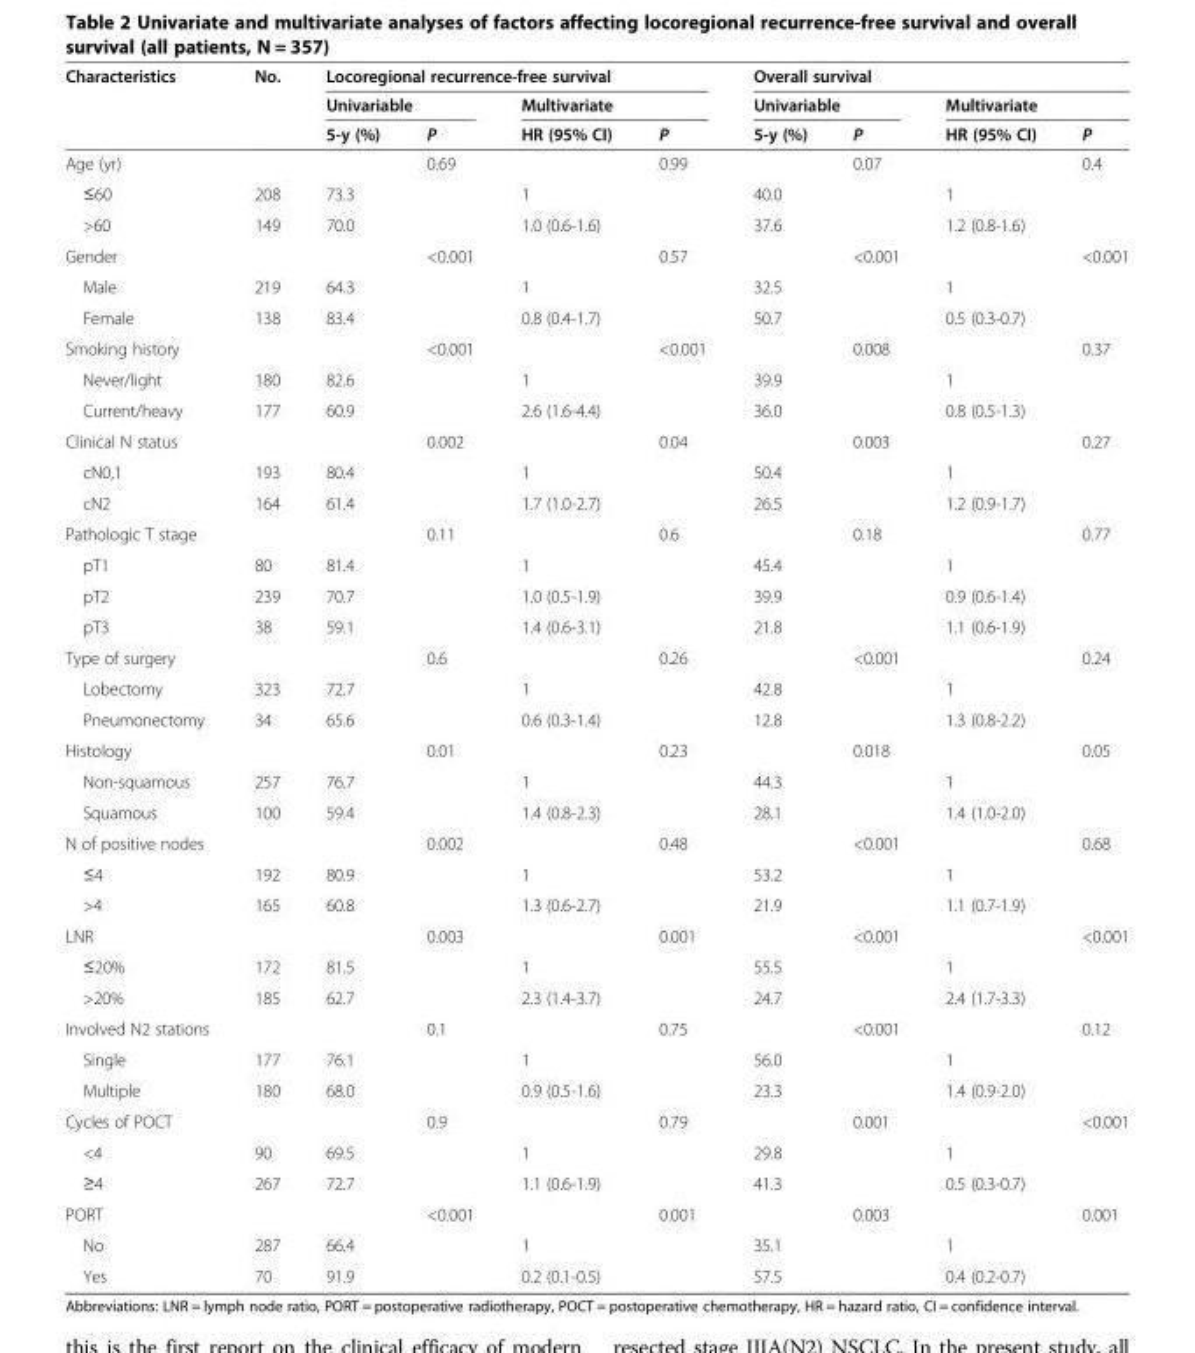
<table><thead><tr><td rowspan="3">Characteristics</td><td rowspan="3">No.</td><td colspan="4">Locoregional recurrence-free survival</td><td colspan="4">Overall survival</td></tr><tr><td colspan="2">Univariable</td><td colspan="2">Multivariate</td><td colspan="2">Univariable</td><td colspan="2">Multivariate</td></tr><tr><td>5-y (%)</td><td>P</td><td>HR (95% CI)</td><td>P</td><td>5-y (%)</td><td>P</td><td>HR (95% CI)</td><td>P</td></tr></thead><tbody><tr><td>Age (yr)</td><td></td><td></td><td>0.69</td><td></td><td>0.99</td><td></td><td>0.07</td><td></td><td>0.4</td></tr><tr><td>≤60</td><td>208</td><td>73.3</td><td rowspan="2"></td><td>1</td><td rowspan="2"></td><td>40.0</td><td rowspan="2"></td><td>1</td><td rowspan="2"></td></tr><tr><td>&gt;60</td><td>149</td><td>70.0</td><td>1.0 (0.6-1.6)</td><td>37.6</td><td>1.2 (0.8-1.6)</td></tr><tr><td>Gender</td><td></td><td></td><td>&lt;0.001</td><td></td><td>0.57</td><td></td><td>&lt;0.001</td><td></td><td>&lt;0.001</td></tr><tr><td>Male</td><td>219</td><td>64.3</td><td rowspan="2"></td><td>1</td><td rowspan="2"></td><td>32.5</td><td rowspan="2"></td><td>1</td><td rowspan="2"></td></tr><tr><td>Female</td><td>138</td><td>83.4</td><td>0.8 (0.4-1.7)</td><td>50.7</td><td>0.5 (0.3-0.7)</td></tr><tr><td>Smoking history</td><td></td><td></td><td>&lt;0.001</td><td></td><td>&lt;0.001</td><td></td><td>0.008</td><td></td><td>0.37</td></tr><tr><td>Never/light</td><td>180</td><td>82.6</td><td rowspan="2"></td><td>1</td><td rowspan="2"></td><td>39.9</td><td rowspan="2"></td><td>1</td><td rowspan="2"></td></tr><tr><td>Current/heavy</td><td>177</td><td>60.9</td><td>2.6 (1.6-4.4)</td><td>36.0</td><td>0.8 (0.5-1.3)</td></tr><tr><td>Clinical N status</td><td></td><td></td><td>0.002</td><td></td><td>0.04</td><td></td><td>0.003</td><td></td><td>0.27</td></tr><tr><td>cN0,1</td><td>193</td><td>80.4</td><td rowspan="2"></td><td>1</td><td rowspan="2"></td><td>50.4</td><td rowspan="2"></td><td>1</td><td rowspan="2"></td></tr><tr><td>cN2</td><td>164</td><td>61.4</td><td>1.7 (1.0-2.7)</td><td>26.5</td><td>1.2 (0.9-1.7)</td></tr><tr><td>Pathologic T stage</td><td></td><td></td><td>0.11</td><td></td><td>0.6</td><td></td><td>0.18</td><td></td><td>0.77</td></tr><tr><td>pT1</td><td>80</td><td>81.4</td><td rowspan="3"></td><td>1</td><td rowspan="3"></td><td>45.4</td><td rowspan="3"></td><td>1</td><td rowspan="3"></td></tr><tr><td>pT2</td><td>239</td><td>70.7</td><td>1.0 (0.5-1.9)</td><td>39.9</td><td>0.9 (0.6-1.4)</td></tr><tr><td>pT3</td><td>38</td><td>59.1</td><td>1.4 (0.6-3.1)</td><td>21.8</td><td>1.1 (0.6-1.9)</td></tr><tr><td>Type of surgery</td><td></td><td></td><td>0.6</td><td></td><td>0.26</td><td></td><td>&lt;0.001</td><td></td><td>0.24</td></tr><tr><td>Lobectomy</td><td>323</td><td>72.7</td><td rowspan="2"></td><td>1</td><td rowspan="2"></td><td>42.8</td><td rowspan="2"></td><td>1</td><td rowspan="2"></td></tr><tr><td>Pneumonectomy</td><td>34</td><td>65.6</td><td>0.6 (0.3-1.4)</td><td>12.8</td><td>1.3 (0.8-2.2)</td></tr><tr><td>Histology</td><td></td><td></td><td>0.01</td><td></td><td>0.23</td><td></td><td>0.018</td><td></td><td>0.05</td></tr><tr><td>Non-squamous</td><td>257</td><td>76.7</td><td rowspan="2"></td><td>1</td><td rowspan="2"></td><td>44.3</td><td rowspan="2"></td><td>1</td><td rowspan="2"></td></tr><tr><td>Squamous</td><td>100</td><td>59.4</td><td>1.4 (0.8-2.3)</td><td>28.1</td><td>1.4 (1.0-2.0)</td></tr><tr><td>N of positive nodes</td><td></td><td></td><td>0.002</td><td></td><td>0.48</td><td></td><td>&lt;0.001</td><td></td><td>0.68</td></tr><tr><td>≤4</td><td>192</td><td>80.9</td><td rowspan="2"></td><td>1</td><td rowspan="2"></td><td>53.2</td><td rowspan="2"></td><td>1</td><td rowspan="2"></td></tr><tr><td>&gt;4</td><td>165</td><td>60.8</td><td>1.3 (0.6-2.7)</td><td>21.9</td><td>1.1 (0.7-1.9)</td></tr><tr><td>LNR</td><td></td><td></td><td>0.003</td><td></td><td>0.001</td><td></td><td>&lt;0.001</td><td></td><td>&lt;0.001</td></tr><tr><td>≤20%</td><td>172</td><td>81.5</td><td rowspan="2"></td><td>1</td><td rowspan="2"></td><td>55.5</td><td rowspan="2"></td><td>1</td><td rowspan="2"></td></tr><tr><td>&gt;20%</td><td>185</td><td>62.7</td><td>2.3 (1.4-3.7)</td><td>24.7</td><td>2.4 (1.7-3.3)</td></tr><tr><td>Involved N2 stations</td><td></td><td></td><td>0.1</td><td></td><td>0.75</td><td></td><td>&lt;0.001</td><td></td><td>0.12</td></tr><tr><td>Single</td><td>177</td><td>76.1</td><td rowspan="2"></td><td>1</td><td rowspan="2"></td><td>56.0</td><td rowspan="2"></td><td>1</td><td rowspan="2"></td></tr><tr><td>Multiple</td><td>180</td><td>68.0</td><td>0.9 (0.5-1.6)</td><td>23.3</td><td>1.4 (0.9-2.0)</td></tr><tr><td>Cycles of POCT</td><td></td><td></td><td>0.9</td><td></td><td>0.79</td><td></td><td>0.001</td><td></td><td>&lt;0.001</td></tr><tr><td>&lt;4</td><td>90</td><td>69.5</td><td rowspan="2"></td><td>1</td><td rowspan="2"></td><td>29.8</td><td rowspan="2"></td><td>1</td><td rowspan="2"></td></tr><tr><td>≥4</td><td>267</td><td>72.7</td><td>1.1 (0.6-1.9)</td><td>41.3</td><td>0.5 (0.3-0.7)</td></tr><tr><td>PORT</td><td></td><td></td><td>&lt;0.001</td><td></td><td>0.001</td><td></td><td>0.003</td><td></td><td>0.001</td></tr><tr><td>No</td><td>287</td><td>66.4</td><td></td><td>1</td><td></td><td>35.1</td><td></td><td>1</td><td></td></tr><tr><td>Yes</td><td>70</td><td>91.9</td><td></td><td>0.2 (0.1-0.5)</td><td></td><td>57.5</td><td></td><td>0.4 (0.2-0.7)</td><td></td></tr></tbody></table>